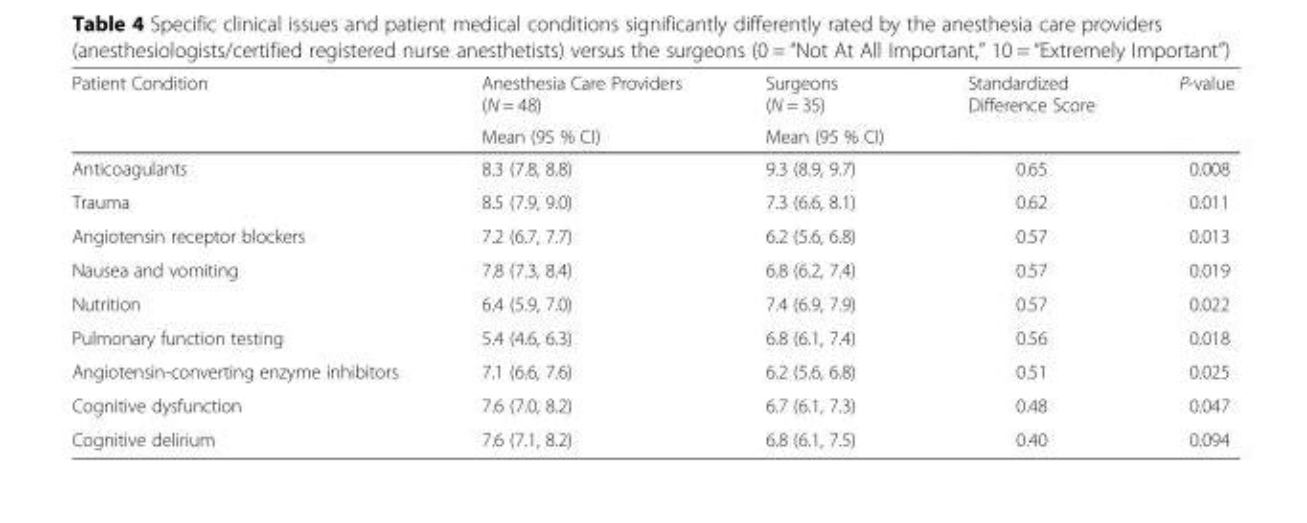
<table><thead><tr><td rowspan="2">Patient Condition</td><td rowspan="2">Anesthesia Care Providers (N = 48) Mean (95 % CI)</td><td rowspan="2">Surgeons (N = 35) Mean (95 % CI)</td><td rowspan="2">Standardized Difference Score</td><td rowspan="2">P-value</td></tr><tr></tr></thead><tbody><tr><td>Anticoagulants</td><td>8.3 (7.8, 8.8)</td><td>9.3 (8.9, 9.7)</td><td>0.65</td><td>0.008</td></tr><tr><td>Trauma</td><td>8.5 (7.9, 9.0)</td><td>7.3 (6.6, 8.1)</td><td>0.62</td><td>0.011</td></tr><tr><td>Angiotensin receptor blockers</td><td>7.2 (6.7, 7.7)</td><td>6.2 (5.6, 6.8)</td><td>0.57</td><td>0.013</td></tr><tr><td>Nausea and vomiting</td><td>7.8 (7.3, 8.4)</td><td>6.8 (6.2, 7.4)</td><td>0.57</td><td>0.019</td></tr><tr><td>Nutrition</td><td>6.4 (5.9, 7.0)</td><td>7.4 (6.9, 7.9)</td><td>0.57</td><td>0.022</td></tr><tr><td>Pulmonary function testing</td><td>5.4 (4.6, 6.3)</td><td>6.8 (6.1, 7.4)</td><td>0.56</td><td>0.018</td></tr><tr><td>Angiotensin-converting enzyme inhibitors</td><td>7.1 (6.6, 7.6)</td><td>6.2 (5.6, 6.8)</td><td>0.51</td><td>0.025</td></tr><tr><td>Cognitive dysfunction</td><td>7.6 (7.0, 8.2)</td><td>6.7 (6.1, 7.3)</td><td>0.48</td><td>0.047</td></tr><tr><td>Cognitive delirium</td><td>7.6 (7.1, 8.2)</td><td>6.8 (6.1, 7.5)</td><td>0.40</td><td>0.094</td></tr></tbody></table>